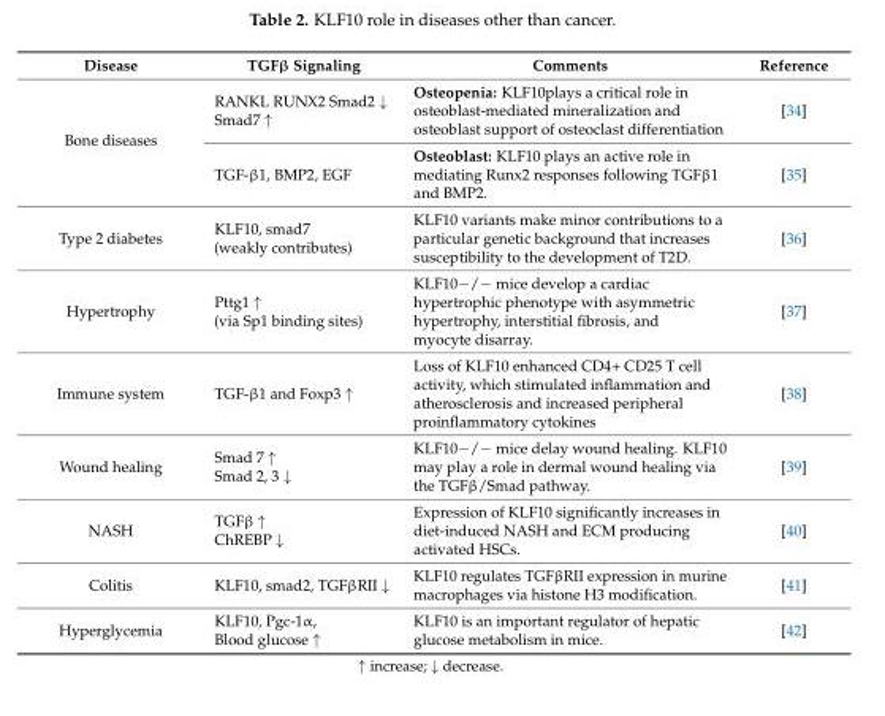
<table><thead><tr><td>Disease</td><td>TGFβ Signaling</td><td>Comments</td><td>Reference</td></tr></thead><tbody><tr><td rowspan="2">Bone diseases</td><td>RANKL RUNX2 Smad2 ↓ Smad7 ↑</td><td>Osteopenia: KLF10plays a critical role in osteoblast-mediated mineralization and osteoblast support of osteoclast differentiation</td><td>[34]</td></tr><tr><td>TGF-β1, BMP2, EGF</td><td>Osteoblast: KLF10 plays an active role in mediating Runx2 responses following TGFβ1 and BMP2.</td><td>[35]</td></tr><tr><td>Type 2 diabetes</td><td>KLF10, smad7 (weakly contributes)</td><td>KLF10 variants make minor contributions to a particular genetic background that increases susceptibility to the development of T2D.</td><td>[36]</td></tr><tr><td>Hypertrophy</td><td>Pttg1 ↑ (via Sp1 binding sites)</td><td>KLF10−/− mice develop a cardiac hypertrophic phenotype with asymmetric hypertrophy, interstitial fibrosis, and myocyte disarray.</td><td>[37]</td></tr><tr><td>Immune system</td><td>TGF-β1 and Foxp3 ↑</td><td>Loss of KLF10 enhanced CD4+ CD25 T cell activity, which stimulated inflammation and atherosclerosis and increased peripheral proinflammatory cytokines</td><td>[38]</td></tr><tr><td>Wound healing</td><td>Smad 7 ↑ Smad 2, 3 ↓</td><td>KLF10−/− mice delay wound healing. KLF10 may play a role in dermal wound healing via the TGFβ/Smad pathway.</td><td>[39]</td></tr><tr><td>NASH</td><td>TGFβ ↑ ChREBP ↓</td><td>Expression of KLF10 significantly increases in diet-induced NASH and ECM producing activated HSCs.</td><td>[40]</td></tr><tr><td>Colitis</td><td>KLF10, smad2, TGFβRII ↓</td><td>KLF10 regulates TGFβRII expression in murine macrophages via histone H3 modification.</td><td>[41]</td></tr><tr><td>Hyperglycemia</td><td>KLF10, Pgc-1α, Blood glucose ↑</td><td>KLF10 is an important regulator of hepatic glucose metabolism in mice.</td><td>[42]</td></tr></tbody></table>